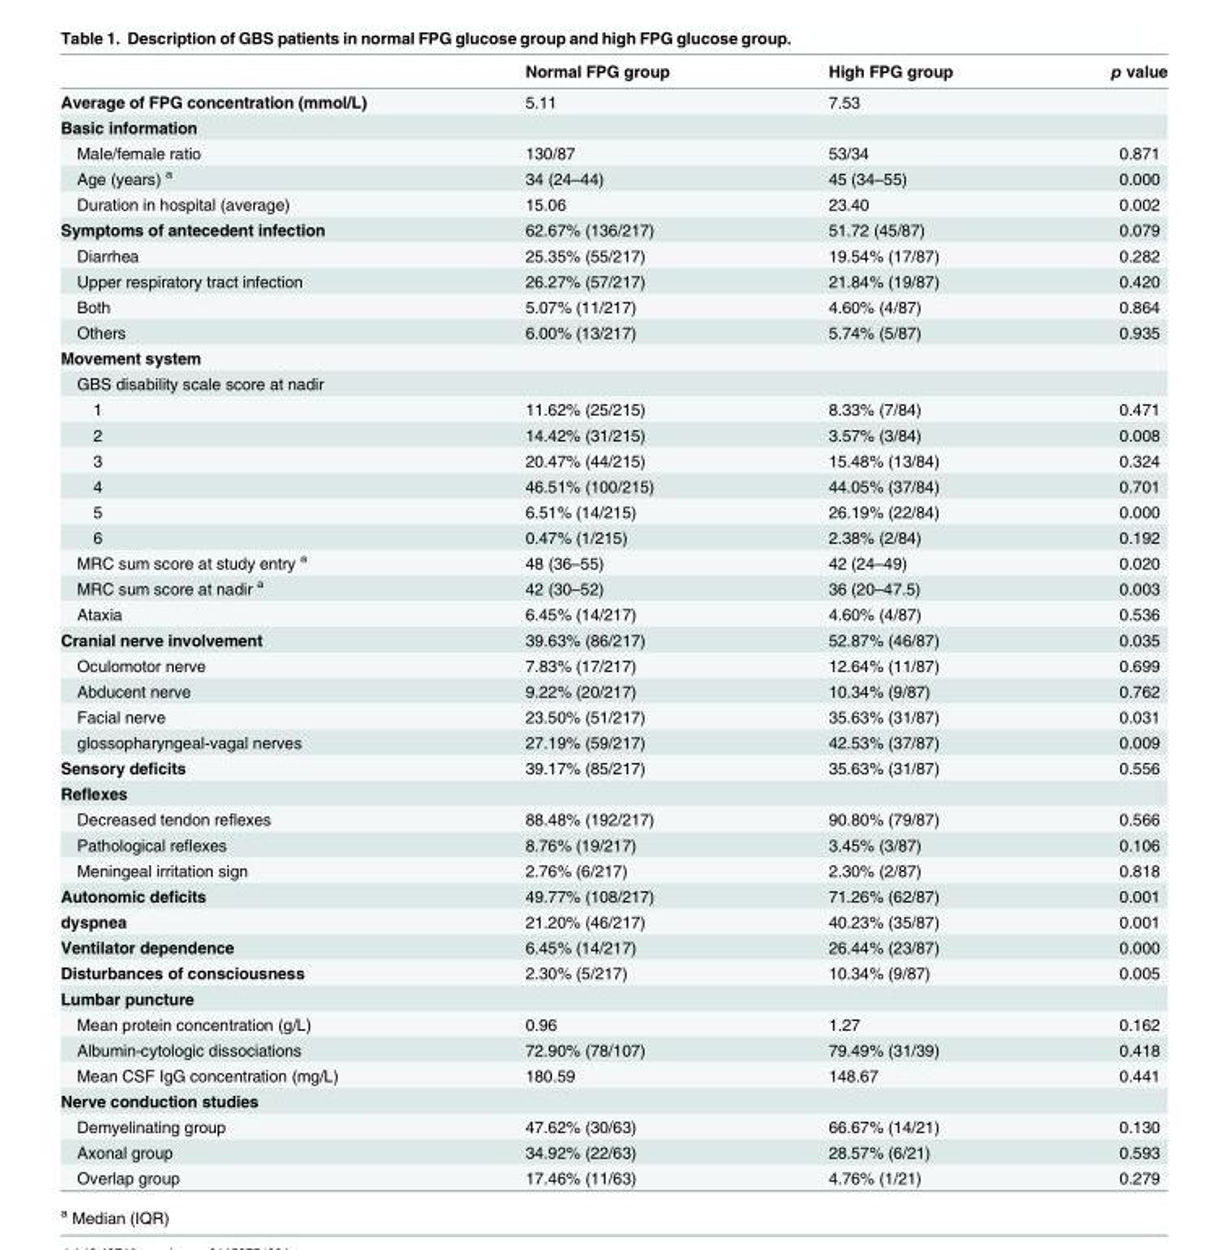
<table><thead><tr><td></td><td>Normal FPG group</td><td>High FPG group</td><td>p value</td></tr></thead><tbody><tr><td>Average of FPG concentration (mmol/L)</td><td>5.11</td><td>7.53</td><td></td></tr><tr><td colspan="4">Basic information</td></tr><tr><td>Male/female ratio</td><td>130/87</td><td>53/34</td><td>0.871</td></tr><tr><td>Age (years) <sup>a</sup></td><td>34 (24–44)</td><td>45 (34–55)</td><td>0.000</td></tr><tr><td>Duration in hospital (average)</td><td>15.06</td><td>23.40</td><td>0.002</td></tr><tr><td>Symptoms of antecedent infection</td><td>62.67% (136/217)</td><td>51.72 (45/87)</td><td>0.079</td></tr><tr><td>Diarrhea</td><td>25.35% (55/217)</td><td>19.54% (17/87)</td><td>0.282</td></tr><tr><td>Upper respiratory tract infection</td><td>26.27% (57/217)</td><td>21.84% (19/87)</td><td>0.420</td></tr><tr><td>Both</td><td>5.07% (11/217)</td><td>4.60% (4/87)</td><td>0.864</td></tr><tr><td>Others</td><td>6.00% (13/217)</td><td>5.74% (5/87)</td><td>0.935</td></tr><tr><td colspan="4">Movement system</td></tr><tr><td colspan="4">GBS disability scale score at nadir</td></tr><tr><td>1</td><td>11.62% (25/215)</td><td>8.33% (7/84)</td><td>0.471</td></tr><tr><td>2</td><td>14.42% (31/215)</td><td>3.57% (3/84)</td><td>0.008</td></tr><tr><td>3</td><td>20.47% (44/215)</td><td>15.48% (13/84)</td><td>0.324</td></tr><tr><td>4</td><td>46.51% (100/215)</td><td>44.05% (37/84)</td><td>0.701</td></tr><tr><td>5</td><td>6.51% (14/215)</td><td>26.19% (22/84)</td><td>0.000</td></tr><tr><td>6</td><td>0.47% (1/215)</td><td>2.38% (2/84)</td><td>0.192</td></tr><tr><td>MRC sum score at study entry <sup>a</sup></td><td>48 (36–55)</td><td>42 (24–49)</td><td>0.020</td></tr><tr><td>MRC sum score at nadir <sup>a</sup></td><td>42 (30–52)</td><td>36 (20–47.5)</td><td>0.003</td></tr><tr><td>Ataxia</td><td>6.45% (14/217)</td><td>4.60% (4/87)</td><td>0.536</td></tr><tr><td>Cranial nerve involvement</td><td>39.63% (86/217)</td><td>52.87% (46/87)</td><td>0.035</td></tr><tr><td>Oculomotor nerve</td><td>7.83% (17/217)</td><td>12.64% (11/87)</td><td>0.699</td></tr><tr><td>Abducent nerve</td><td>9.22% (20/217)</td><td>10.34% (9/87)</td><td>0.762</td></tr><tr><td>Facial nerve</td><td>23.50% (51/217)</td><td>35.63% (31/87)</td><td>0.031</td></tr><tr><td>glossopharyngeal-vagal nerves</td><td>27.19% (59/217)</td><td>42.53% (37/87)</td><td>0.009</td></tr><tr><td>Sensory deficits</td><td>39.17% (85/217)</td><td>35.63% (31/87)</td><td>0.556</td></tr><tr><td colspan="4">Reflexes</td></tr><tr><td>Decreased tendon reflexes</td><td>88.48% (192/217)</td><td>90.80% (79/87)</td><td>0.566</td></tr><tr><td>Pathological reflexes</td><td>8.76% (19/217)</td><td>3.45% (3/87)</td><td>0.106</td></tr><tr><td>Meningeal irritation sign</td><td>2.76% (6/217)</td><td>2.30% (2/87)</td><td>0.818</td></tr><tr><td>Autonomic deficits</td><td>49.77% (108/217)</td><td>71.26% (62/87)</td><td>0.001</td></tr><tr><td>dyspnea</td><td>21.20% (46/217)</td><td>40.23% (35/87)</td><td>0.001</td></tr><tr><td>Ventilator dependence</td><td>6.45% (14/217)</td><td>26.44% (23/87)</td><td>0.000</td></tr><tr><td>Disturbances of consciousness</td><td>2.30% (5/217)</td><td>10.34% (9/87)</td><td>0.005</td></tr><tr><td colspan="4">Lumbar puncture</td></tr><tr><td>Mean protein concentration (g/L)</td><td>0.96</td><td>1.27</td><td>0.162</td></tr><tr><td>Albumin-cytologic dissociations</td><td>72.90% (78/107)</td><td>79.49% (31/39)</td><td>0.418</td></tr><tr><td>Mean CSF IgG concentration (mg/L)</td><td>180.59</td><td>148.67</td><td>0.441</td></tr><tr><td colspan="4">Nerve conduction studies</td></tr><tr><td>Demyelinating group</td><td>47.62% (30/63)</td><td>66.67% (14/21)</td><td>0.130</td></tr><tr><td>Axonal group</td><td>34.92% (22/63)</td><td>28.57% (6/21)</td><td>0.593</td></tr><tr><td>Overlap group</td><td>17.46% (11/63)</td><td>4.76% (1/21)</td><td>0.279</td></tr></tbody></table>